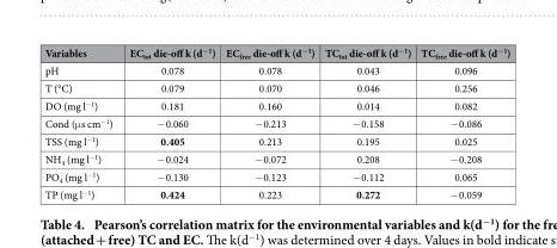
<table><thead><tr><td>Variables</td><td>EC<sub>tot</sub> die-off k (d<sup>−1</sup>)</td><td>EC<sub>free</sub> die-off k (d<sup>−1</sup>)</td><td>TC<sub>tot</sub> die-off k (d<sup>−1</sup>)</td><td>TC<sub>free</sub> die-off k (d<sup>−1</sup>)</td></tr></thead><tbody><tr><td>pH</td><td>0.078</td><td>0.078</td><td>0.043</td><td>0.096</td></tr><tr><td>T (°C)</td><td>0.079</td><td>0.070</td><td>0.046</td><td>0.256</td></tr><tr><td>DO (mg l<sup>−1</sup>)</td><td>0.181</td><td>0.160</td><td>0.014</td><td>0.082</td></tr><tr><td>Cond (μ s cm<sup>−1</sup>)</td><td>− 0.060</td><td>− 0.213</td><td>− 0.158</td><td>− 0.086</td></tr><tr><td>TSS (mg l<sup>−1</sup>)</td><td>0.405</td><td>0.213</td><td>0.195</td><td>0.025</td></tr><tr><td>NH<sub>4</sub> (mg l<sup>−1</sup>)</td><td>− 0.024</td><td>− 0.072</td><td>0.208</td><td>− 0.208</td></tr><tr><td>PO<sub>4</sub> (mg l<sup>−1</sup>)</td><td>− 0.130</td><td>− 0.123</td><td>− 0.112</td><td>0.065</td></tr><tr><td>TP (mg l<sup>−1</sup>)</td><td>0.424</td><td>0.223</td><td>0.272</td><td>− 0.059</td></tr></tbody></table>